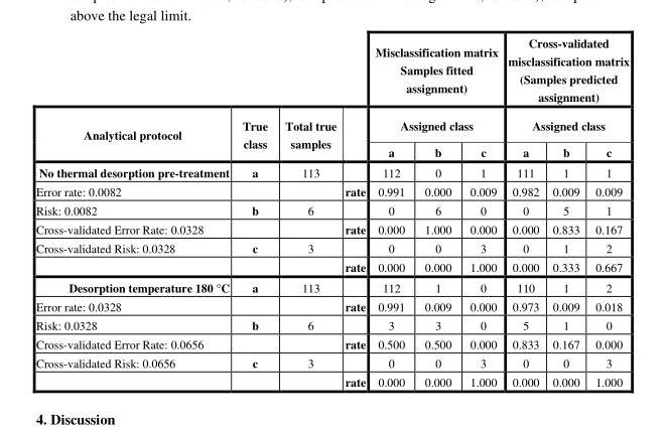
<table><thead><tr><td rowspan="3">Analytical protocol</td><td rowspan="3">True class</td><td rowspan="3">Total true samples</td><td rowspan="3"></td><td rowspan="2" colspan="3">Misclassification matrix Samples fitted assignment) Assigned class</td><td rowspan="2" colspan="3">Cross-validated misclassification matrix (Samples predicted assignment) Assigned class</td></tr><tr></tr><tr><td>a</td><td>b</td><td>c</td><td>a</td><td>b</td><td>c</td></tr></thead><tbody><tr><td>No thermal desorption pre-treatment</td><td>a</td><td>113</td><td></td><td>112</td><td>0</td><td>1</td><td>111</td><td>1</td><td>1</td></tr><tr><td>Error rate: 0.0082</td><td></td><td></td><td>rate</td><td>0.991</td><td>0.000</td><td>0.009</td><td>0.982</td><td>0.009</td><td>0.009</td></tr><tr><td>Risk: 0.0082</td><td>b</td><td>6</td><td></td><td>0</td><td>6</td><td>0</td><td>0</td><td>5</td><td>1</td></tr><tr><td>Cross-validated Error Rate: 0.0328</td><td></td><td></td><td>rate</td><td>0.000</td><td>1.000</td><td>0.000</td><td>0.000</td><td>0.833</td><td>0.167</td></tr><tr><td rowspan="2">Cross-validated Risk: 0.0328</td><td>c</td><td>3</td><td></td><td>0</td><td>0</td><td>3</td><td>0</td><td>1</td><td>2</td></tr><tr><td></td><td></td><td>rate</td><td>0.000</td><td>0.000</td><td>1.000</td><td>0.000</td><td>0.333</td><td>0.667</td></tr><tr><td>Desorption temperature 180 °C</td><td>a</td><td>113</td><td></td><td>112</td><td>1</td><td>0</td><td>110</td><td>1</td><td>2</td></tr><tr><td>Error rate: 0.0328</td><td></td><td></td><td>rate</td><td>0.991</td><td>0.009</td><td>0.000</td><td>0.973</td><td>0.009</td><td>0.018</td></tr><tr><td>Risk: 0.0328</td><td>b</td><td>6</td><td></td><td>3</td><td>3</td><td>0</td><td>5</td><td>1</td><td>0</td></tr><tr><td>Cross-validated Error Rate: 0.0656</td><td></td><td></td><td>rate</td><td>0.500</td><td>0.500</td><td>0.000</td><td>0.833</td><td>0.167</td><td>0.000</td></tr><tr><td rowspan="2">Cross-validated Risk: 0.0656</td><td>c</td><td>3</td><td></td><td>0</td><td>0</td><td>3</td><td>0</td><td>0</td><td>3</td></tr><tr><td></td><td></td><td>rate</td><td>0.000</td><td>0.000</td><td>1.000</td><td>0.000</td><td>0.000</td><td>1.000</td></tr></tbody></table>